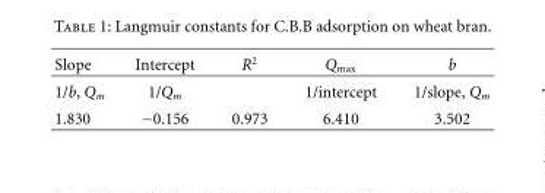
<table><thead><tr><td>Slope</td><td>Intercept</td><td>R<sup>2</sup></td><td>Q<sub>max</sub></td><td>b</td></tr></thead><tbody><tr><td>1/b, Q<sub>m</sub></td><td>1/Q<sub>m</sub></td><td></td><td>1/intercept</td><td>1/slope, Q<sub>m</sub></td></tr><tr><td>1.830</td><td>−0.156</td><td>0.973</td><td>6.410</td><td>3.502</td></tr></tbody></table>